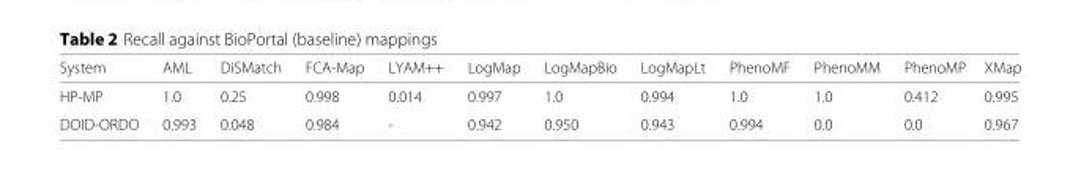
<table><thead><tr><td>System</td><td>AML</td><td>DiSMatch</td><td>FCA-Map</td><td>LYAM++</td><td>LogMap</td><td>LogMapBio</td><td>LogMapLt</td><td>PhenoMF</td><td>PhenoMM</td><td>PhenoMP</td><td>XMap</td></tr></thead><tbody><tr><td>HP-MP</td><td>1.0</td><td>0.25</td><td>0.998</td><td>0.014</td><td>0.997</td><td>1.0</td><td>0.994</td><td>1.0</td><td>1.0</td><td>0.412</td><td>0.995</td></tr><tr><td>DOID-ORDO</td><td>0.993</td><td>0.048</td><td>0.984</td><td>-</td><td>0.942</td><td>0.950</td><td>0.943</td><td>0.994</td><td>0.0</td><td>0.0</td><td>0.967</td></tr></tbody></table>